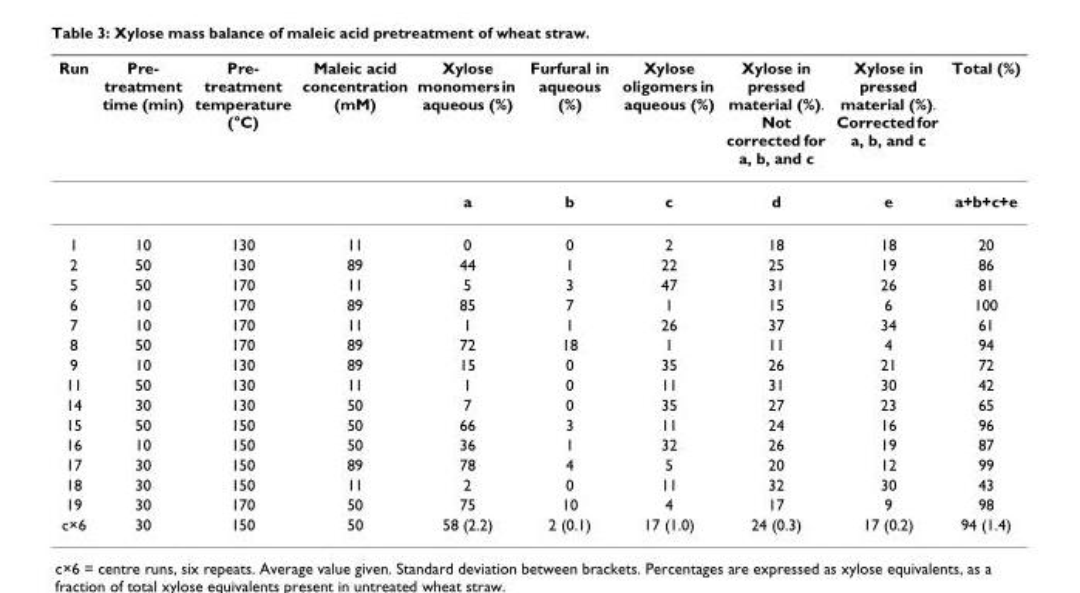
<table><thead><tr><td>Run</td><td>Pre- treatment time (min)</td><td>Pre- treatment temperature (°C)</td><td>Maleic acid concentration (mM)</td><td>Xylose monomers in aqueous (%)</td><td>Furfural in aqueous (%)</td><td>Xylose oligomers in aqueous (%)</td><td>Xylose in pressed material (%). Not corrected for a, b, and c</td><td>Xylose in pressed material (%). Corrected for a, b, and c</td><td>Total (%)</td></tr></thead><tbody><tr><td></td><td></td><td></td><td></td><td>a</td><td>b</td><td>c</td><td>d</td><td>e</td><td>a+b+c+e</td></tr><tr><td>1</td><td>10</td><td>130</td><td>11</td><td>0</td><td>0</td><td>2</td><td>18</td><td>18</td><td>20</td></tr><tr><td>2</td><td>50</td><td>130</td><td>89</td><td>44</td><td>1</td><td>22</td><td>25</td><td>19</td><td>86</td></tr><tr><td>5</td><td>50</td><td>170</td><td>11</td><td>5</td><td>3</td><td>47</td><td>31</td><td>26</td><td>81</td></tr><tr><td>6</td><td>10</td><td>170</td><td>89</td><td>85</td><td>7</td><td>1</td><td>15</td><td>6</td><td>100</td></tr><tr><td>7</td><td>10</td><td>170</td><td>11</td><td>1</td><td>1</td><td>26</td><td>37</td><td>34</td><td>61</td></tr><tr><td>8</td><td>50</td><td>170</td><td>89</td><td>72</td><td>18</td><td>1</td><td>11</td><td>4</td><td>94</td></tr><tr><td>9</td><td>10</td><td>130</td><td>89</td><td>15</td><td>0</td><td>35</td><td>26</td><td>21</td><td>72</td></tr><tr><td>11</td><td>50</td><td>130</td><td>11</td><td>1</td><td>0</td><td>11</td><td>31</td><td>30</td><td>42</td></tr><tr><td>14</td><td>30</td><td>130</td><td>50</td><td>7</td><td>0</td><td>35</td><td>27</td><td>23</td><td>65</td></tr><tr><td>15</td><td>50</td><td>150</td><td>50</td><td>66</td><td>3</td><td>11</td><td>24</td><td>16</td><td>96</td></tr><tr><td>16</td><td>10</td><td>150</td><td>50</td><td>36</td><td>1</td><td>32</td><td>26</td><td>19</td><td>87</td></tr><tr><td>17</td><td>30</td><td>150</td><td>89</td><td>78</td><td>4</td><td>5</td><td>20</td><td>12</td><td>99</td></tr><tr><td>18</td><td>30</td><td>150</td><td>11</td><td>2</td><td>0</td><td>11</td><td>32</td><td>30</td><td>43</td></tr><tr><td>19</td><td>30</td><td>170</td><td>50</td><td>75</td><td>10</td><td>4</td><td>17</td><td>9</td><td>98</td></tr><tr><td>c×6</td><td>30</td><td>150</td><td>50</td><td>58 (2.2)</td><td>2 (0.1)</td><td>17 (1.0)</td><td>24 (0.3)</td><td>17 (0.2)</td><td>94 (1.4)</td></tr></tbody></table>